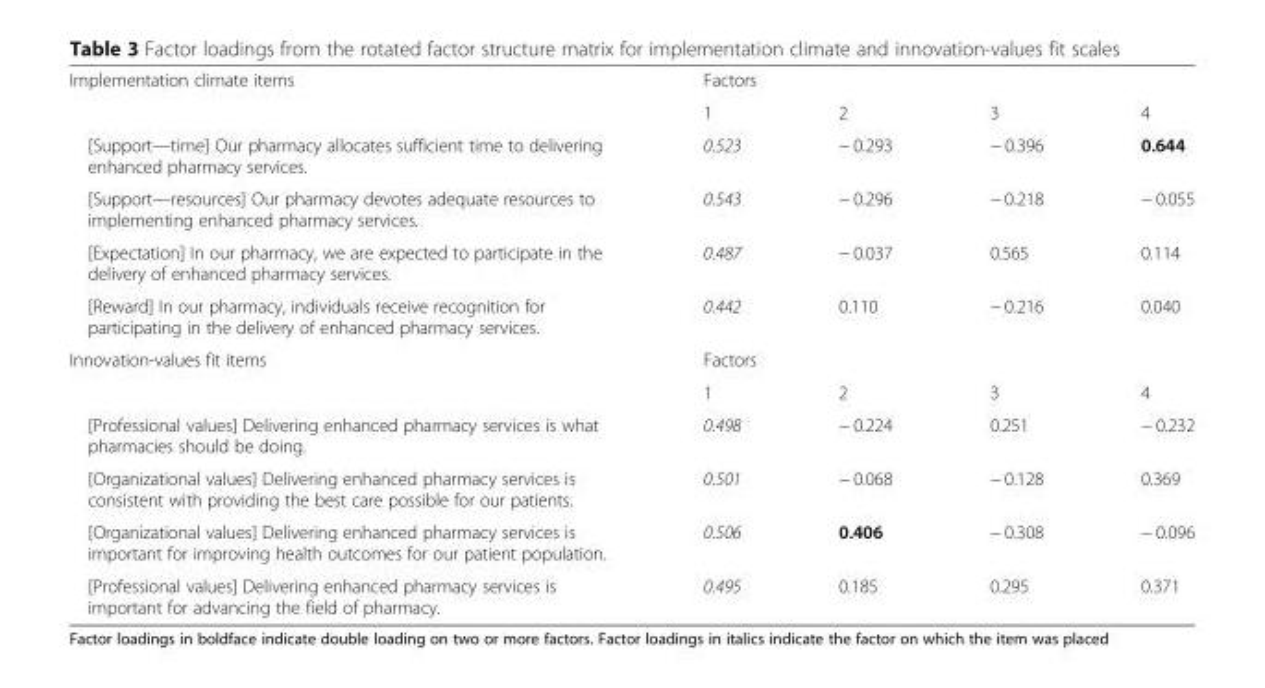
<table><tbody><tr><td rowspan="2">Implementation climate items</td><td colspan="4">Factors</td></tr><tr><td>1</td><td>2</td><td>3</td><td>4</td></tr><tr><td>[Support—time] Our pharmacy allocates sufficient time to delivering enhanced pharmacy services.</td><td>0.523</td><td>− 0.293</td><td>− 0.396</td><td>0.644</td></tr><tr><td>[Support—resources] Our pharmacy devotes adequate resources to implementing enhanced pharmacy services.</td><td>0.543</td><td>− 0.296</td><td>− 0.218</td><td>− 0.055</td></tr><tr><td>[Expectation] In our pharmacy, we are expected to participate in the delivery of enhanced pharmacy services.</td><td>0.487</td><td>− 0.037</td><td>0.565</td><td>0.114</td></tr><tr><td>[Reward] In our pharmacy, individuals receive recognition for participating in the delivery of enhanced pharmacy services.</td><td>0.442</td><td>0.110</td><td>− 0.216</td><td>0.040</td></tr><tr><td rowspan="2">Innovation-values fit items</td><td colspan="4">Factors</td></tr><tr><td>1</td><td>2</td><td>3</td><td>4</td></tr><tr><td>[Professional values] Delivering enhanced pharmacy services is what pharmacies should be doing.</td><td>0.498</td><td>− 0.224</td><td>0.251</td><td>− 0.232</td></tr><tr><td>[Organizational values] Delivering enhanced pharmacy services is consistent with providing the best care possible for our patients.</td><td>0.501</td><td>− 0.068</td><td>− 0.128</td><td>0.369</td></tr><tr><td>[Organizational values] Delivering enhanced pharmacy services is important for improving health outcomes for our patient population.</td><td>0.506</td><td>0.406</td><td>− 0.308</td><td>− 0.096</td></tr><tr><td>[Professional values] Delivering enhanced pharmacy services is important for advancing the field of pharmacy.</td><td>0.495</td><td>0.185</td><td>0.295</td><td>0.371</td></tr></tbody></table>